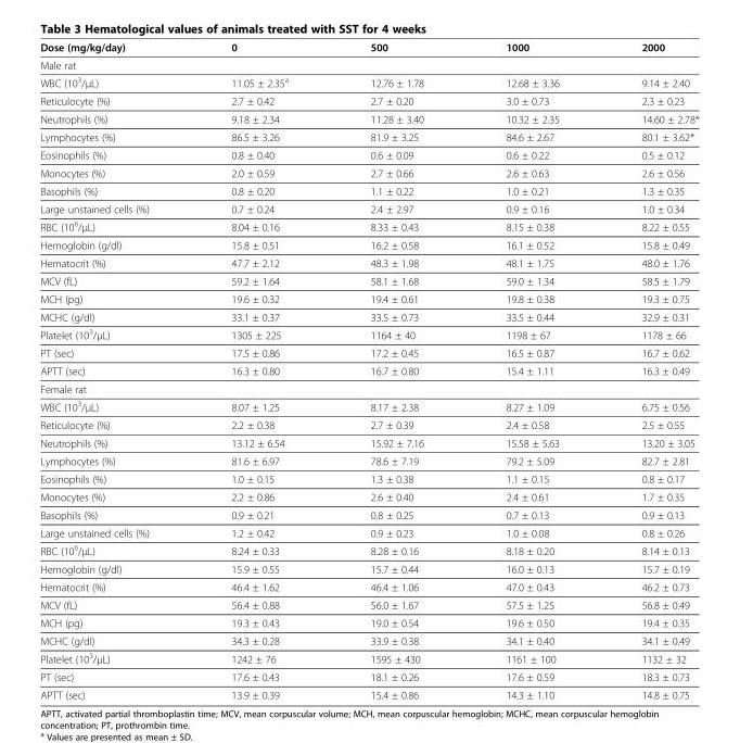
<table><thead><tr><td>Dose (mg/kg/day)</td><td>0</td><td>500</td><td>1000</td><td>2000</td></tr></thead><tbody><tr><td colspan="5">Male rat</td></tr><tr><td>WBC (10<sup>3</sup>/μL)</td><td>11.05 ± 2.35<sup>a</sup></td><td>12.76 ± 1.78</td><td>12.68 ± 3.36</td><td>9.14 ± 2.40</td></tr><tr><td>Reticulocyte (%)</td><td>2.7 ± 0.42</td><td>2.7 ± 0.20</td><td>3.0 ± 0.73</td><td>2.3 ± 0.23</td></tr><tr><td>Neutrophils (%)</td><td>9.18 ± 2.34</td><td>11.28 ± 3.40</td><td>10.32 ± 2.35</td><td>14.60 ± 2.78*</td></tr><tr><td>Lymphocytes (%)</td><td>86.5 ± 3.26</td><td>81.9 ± 3.25</td><td>84.6 ± 2.67</td><td>80.1 ± 3.62*</td></tr><tr><td>Eosinophils (%)</td><td>0.8 ± 0.40</td><td>0.6 ± 0.09</td><td>0.6 ± 0.22</td><td>0.5 ± 0.12</td></tr><tr><td>Monocytes (%)</td><td>2.0 ± 0.59</td><td>2.7 ± 0.66</td><td>2.6 ± 0.63</td><td>2.6 ± 0.56</td></tr><tr><td>Basophils (%)</td><td>0.8 ± 0.20</td><td>1.1 ± 0.22</td><td>1.0 ± 0.21</td><td>1.3 ± 0.35</td></tr><tr><td>Large unstained cells (%)</td><td>0.7 ± 0.24</td><td>2.4 ± 2.97</td><td>0.9 ± 0.16</td><td>1.0 ± 0.34</td></tr><tr><td>RBC (10<sup>6</sup>/μL)</td><td>8.04 ± 0.16</td><td>8.33 ± 0.43</td><td>8.15 ± 0.38</td><td>8.22 ± 0.55</td></tr><tr><td>Hemoglobin (g/dl)</td><td>15.8 ± 0.51</td><td>16.2 ± 0.58</td><td>16.1 ± 0.52</td><td>15.8 ± 0.49</td></tr><tr><td>Hematocrit (%)</td><td>47.7 ± 2.12</td><td>48.3 ± 1.98</td><td>48.1 ± 1.75</td><td>48.0 ± 1.76</td></tr><tr><td>MCV (fL)</td><td>59.2 ± 1.64</td><td>58.1 ± 1.68</td><td>59.0 ± 1.34</td><td>58.5 ± 1.79</td></tr><tr><td>MCH (pg)</td><td>19.6 ± 0.32</td><td>19.4 ± 0.61</td><td>19.8 ± 0.38</td><td>19.3 ± 0.75</td></tr><tr><td>MCHC (g/dl)</td><td>33.1 ± 0.37</td><td>33.5 ± 0.73</td><td>33.5 ± 0.44</td><td>32.9 ± 0.31</td></tr><tr><td>Platelet (10<sup>3</sup>/μL)</td><td>1305 ± 225</td><td>1164 ± 40</td><td>1198 ± 67</td><td>1178 ± 66</td></tr><tr><td>PT (sec)</td><td>17.5 ± 0.86</td><td>17.2 ± 0.45</td><td>16.5 ± 0.87</td><td>16.7 ± 0.62</td></tr><tr><td>APTT (sec)</td><td>16.3 ± 0.80</td><td>16.7 ± 0.80</td><td>15.4 ± 1.11</td><td>16.3 ± 0.49</td></tr><tr><td colspan="5">Female rat</td></tr><tr><td>WBC (10<sup>3</sup>/μL)</td><td>8.07 ± 1.25</td><td>8.17 ± 2.38</td><td>8.27 ± 1.09</td><td>6.75 ± 0.56</td></tr><tr><td>Reticulocyte (%)</td><td>2.2 ± 0.38</td><td>2.7 ± 0.39</td><td>2.4 ± 0.58</td><td>2.5 ± 0.55</td></tr><tr><td>Neutrophils (%)</td><td>13.12 ± 6.54</td><td>15.92 ± 7.16</td><td>15.58 ± 5.63</td><td>13.20 ± 3.05</td></tr><tr><td>Lymphocytes (%)</td><td>81.6 ± 6.97</td><td>78.6 ± 7.19</td><td>79.2 ± 5.09</td><td>82.7 ± 2.81</td></tr><tr><td>Eosinophils (%)</td><td>1.0 ± 0.15</td><td>1.3 ± 0.38</td><td>1.1 ± 0.15</td><td>0.8 ± 0.17</td></tr><tr><td>Monocytes (%)</td><td>2.2 ± 0.86</td><td>2.6 ± 0.40</td><td>2.4 ± 0.61</td><td>1.7 ± 0.35</td></tr><tr><td>Basophils (%)</td><td>0.9 ± 0.21</td><td>0.8 ± 0.25</td><td>0.7 ± 0.13</td><td>0.9 ± 0.13</td></tr><tr><td>Large unstained cells (%)</td><td>1.2 ± 0.42</td><td>0.9 ± 0.23</td><td>1.0 ± 0.08</td><td>0.8 ± 0.26</td></tr><tr><td>RBC (10<sup>6</sup>/μL)</td><td>8.24 ± 0.33</td><td>8.28 ± 0.16</td><td>8.18 ± 0.20</td><td>8.14 ± 0.13</td></tr><tr><td>Hemoglobin (g/dl)</td><td>15.9 ± 0.55</td><td>15.7 ± 0.44</td><td>16.0 ± 0.13</td><td>15.7 ± 0.19</td></tr><tr><td>Hematocrit (%)</td><td>46.4 ± 1.62</td><td>46.4 ± 1.06</td><td>47.0 ± 0.43</td><td>46.2 ± 0.73</td></tr><tr><td>MCV (fL)</td><td>56.4 ± 0.88</td><td>56.0 ± 1.67</td><td>57.5 ± 1.25</td><td>56.8 ± 0.49</td></tr><tr><td>MCH (pg)</td><td>19.3 ± 0.43</td><td>19.0 ± 0.54</td><td>19.6 ± 0.50</td><td>19.4 ± 0.35</td></tr><tr><td>MCHC (g/dl)</td><td>34.3 ± 0.28</td><td>33.9 ± 0.38</td><td>34.1 ± 0.40</td><td>34.1 ± 0.49</td></tr><tr><td>Platelet (10<sup>3</sup>/μL)</td><td>1242 ± 76</td><td>1595 ± 430</td><td>1161 ± 100</td><td>1132 ± 32</td></tr><tr><td>PT (sec)</td><td>17.6 ± 0.43</td><td>18.1 ± 0.26</td><td>17.6 ± 0.59</td><td>18.3 ± 0.73</td></tr><tr><td>APTT (sec)</td><td>13.9 ± 0.39</td><td>15.4 ± 0.86</td><td>14.3 ± 1.10</td><td>14.8 ± 0.75</td></tr></tbody></table>